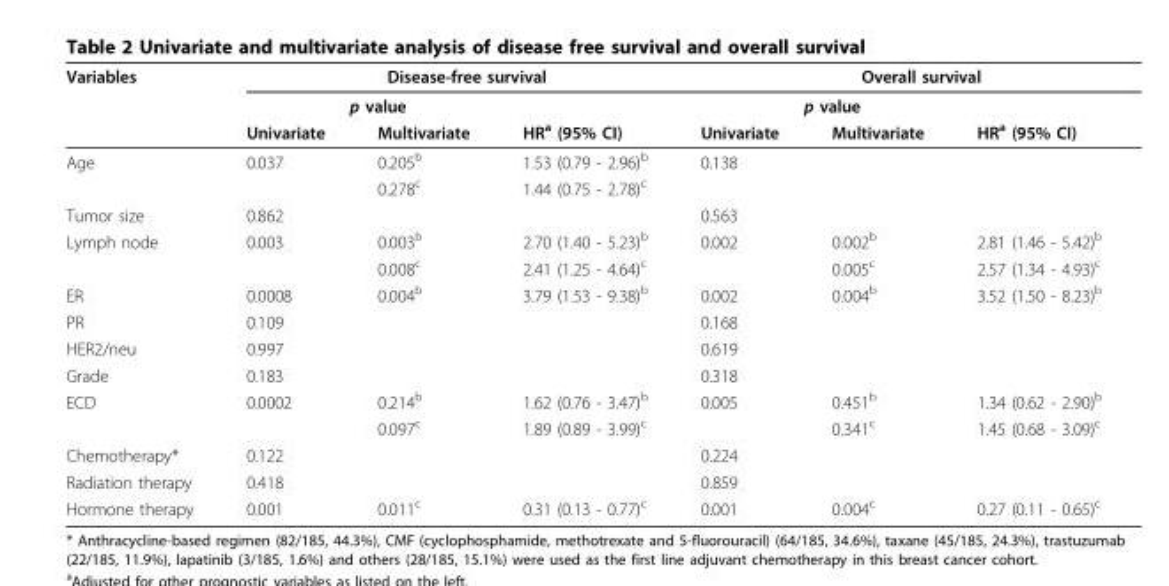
<table><thead><tr><td rowspan="3">Variables</td><td colspan="3">Disease-free survival</td><td colspan="3">Overall survival</td></tr><tr><td colspan="2">p value</td><td rowspan="2">HR<sup>a</sup> (95% CI)</td><td colspan="2">p value</td><td rowspan="2">HR<sup>a</sup> (95% CI)</td></tr><tr><td>Univariate</td><td>Multivariate</td><td>Univariate</td><td>Multivariate</td></tr></thead><tbody><tr><td rowspan="2">Age</td><td>0.037</td><td>0.205<sup>b</sup></td><td>1.53 (0.79 - 2.96)<sup>b</sup></td><td>0.138</td><td></td><td></td></tr><tr><td></td><td>0.278<sup>c</sup></td><td>1.44 (0.75 - 2.78)<sup>c</sup></td><td></td><td></td><td></td></tr><tr><td>Tumor size</td><td>0.862</td><td></td><td></td><td>0.563</td><td></td><td></td></tr><tr><td rowspan="2">Lymph node</td><td>0.003</td><td>0.003<sup>b</sup></td><td>2.70 (1.40 - 5.23)<sup>b</sup></td><td>0.002</td><td>0.002<sup>b</sup></td><td>2.81 (1.46 - 5.42)<sup>b</sup></td></tr><tr><td></td><td>0.008<sup>c</sup></td><td>2.41 (1.25 - 4.64)<sup>c</sup></td><td></td><td>0.005<sup>c</sup></td><td>2.57 (1.34 - 4.93)<sup>c</sup></td></tr><tr><td>ER</td><td>0.0008</td><td>0.004<sup>b</sup></td><td>3.79 (1.53 - 9.38)<sup>b</sup></td><td>0.002</td><td>0.004<sup>b</sup></td><td>3.52 (1.50 - 8.23)<sup>b</sup></td></tr><tr><td>PR</td><td>0.109</td><td></td><td></td><td>0.168</td><td></td><td></td></tr><tr><td>HER2/neu</td><td>0.997</td><td></td><td></td><td>0.619</td><td></td><td></td></tr><tr><td>Grade</td><td>0.183</td><td></td><td></td><td>0.318</td><td></td><td></td></tr><tr><td rowspan="2">ECD</td><td>0.0002</td><td>0.214<sup>b</sup></td><td>1.62 (0.76 - 3.47)<sup>b</sup></td><td>0.005</td><td>0.451<sup>b</sup></td><td>1.34 (0.62 - 2.90)<sup>b</sup></td></tr><tr><td></td><td>0.097<sup>c</sup></td><td>1.89 (0.89 - 3.99)<sup>c</sup></td><td></td><td>0.341<sup>c</sup></td><td>1.45 (0.68 - 3.09)<sup>c</sup></td></tr><tr><td>Chemotherapy*</td><td>0.122</td><td></td><td></td><td>0.224</td><td></td><td></td></tr><tr><td>Radiation therapy</td><td>0.418</td><td></td><td></td><td>0.859</td><td></td><td></td></tr><tr><td>Hormone therapy</td><td>0.001</td><td>0.011<sup>c</sup></td><td>0.31 (0.13 - 0.77)<sup>c</sup></td><td>0.001</td><td>0.004<sup>c</sup></td><td>0.27 (0.11 - 0.65)<sup>c</sup></td></tr></tbody></table>